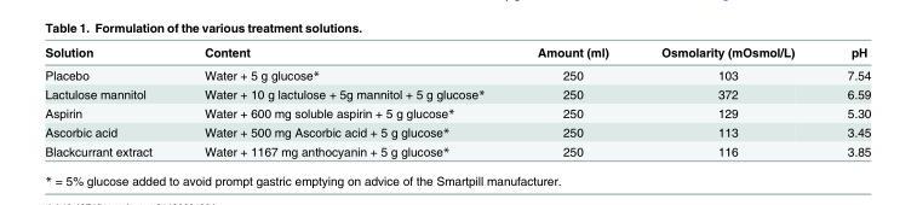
<table><thead><tr><td>Solution</td><td>Content</td><td>Amount (ml)</td><td>Osmolarity (mOsmol/L)</td><td>pH</td></tr></thead><tbody><tr><td>Placebo</td><td>Water + 5 g glucose*</td><td>250</td><td>103</td><td>7.54</td></tr><tr><td>Lactulose mannitol</td><td>Water + 10 g lactulose + 5g mannitol + 5 g glucose*</td><td>250</td><td>372</td><td>6.59</td></tr><tr><td>Aspirin</td><td>Water + 600 mg soluble aspirin + 5 g glucose*</td><td>250</td><td>129</td><td>5.30</td></tr><tr><td>Ascorbic acid</td><td>Water + 500 mg Ascorbic acid + 5 g glucose*</td><td>250</td><td>113</td><td>3.45</td></tr><tr><td>Blackcurrant extract</td><td>Water + 1167 mg anthocyanin + 5 g glucose*</td><td>250</td><td>116</td><td>3.85</td></tr></tbody></table>